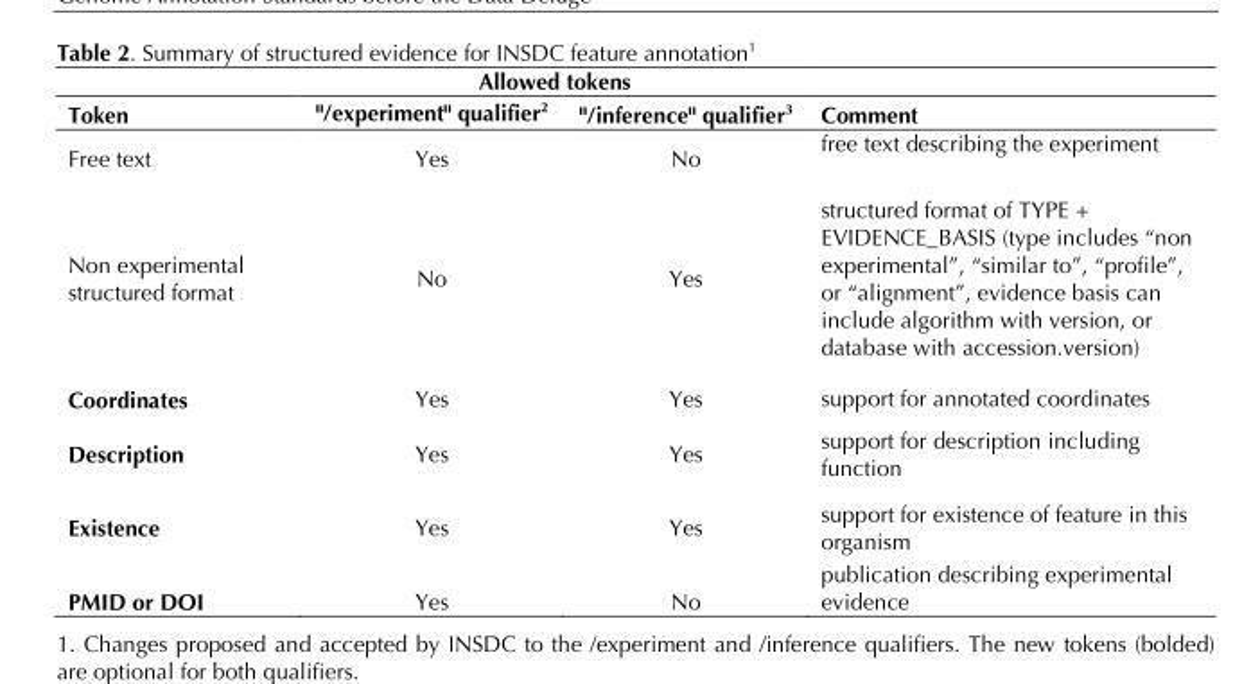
<table><thead><tr><td rowspan="2">Token</td><td colspan="2">Allowed tokens</td><td rowspan="2">Comment</td></tr><tr><td>&quot;/experiment&quot; qualifier<sup>2</sup></td><td>&quot;/inference&quot; qualifier<sup>3</sup></td></tr></thead><tbody><tr><td>Free text</td><td>Yes</td><td>No</td><td>free text describing the experiment</td></tr><tr><td>Non experimental structured format</td><td>No</td><td>Yes</td><td>structured format of TYPE + EVIDENCE_BASIS (type includes “non experimental”, “similar to”, “profile”, or “alignment”, evidence basis can include algorithm with version, or database with accession.version)</td></tr><tr><td>Coordinates</td><td>Yes</td><td>Yes</td><td>support for annotated coordinates</td></tr><tr><td>Description</td><td>Yes</td><td>Yes</td><td>support for description including function</td></tr><tr><td>Existence</td><td>Yes</td><td>Yes</td><td>support for existence of feature in this organism</td></tr><tr><td>PMID or DOI</td><td>Yes</td><td>No</td><td>publication describing experimental evidence</td></tr></tbody></table>